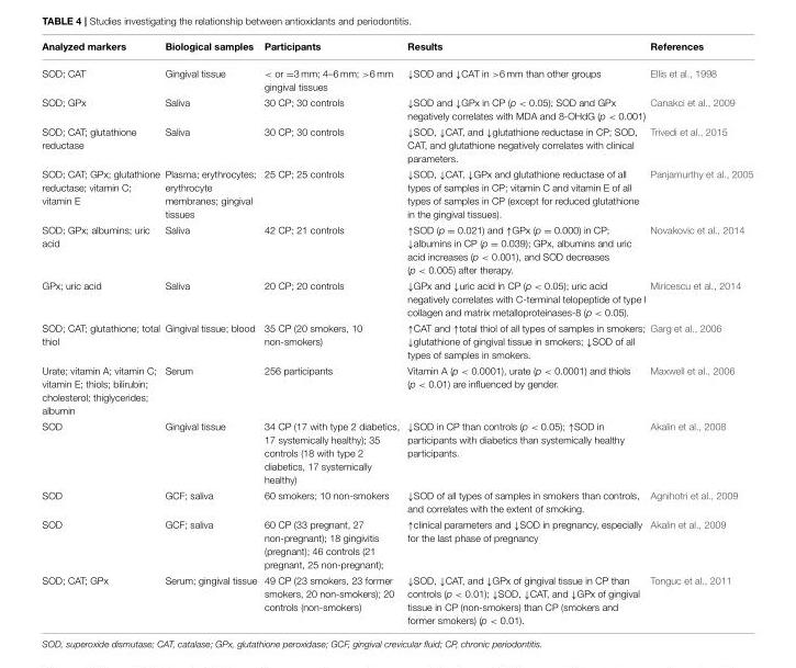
<table><thead><tr><td>Analyzed markers</td><td>Biological samples</td><td>Participants</td><td>Results</td><td>References</td></tr></thead><tbody><tr><td>SOD; CAT</td><td>Gingival tissue</td><td>&lt; or =3 mm; 4–6 mm; &gt;6 mm gingival tissues</td><td>↓SOD and ↓CAT in &gt;6 mm than other groups</td><td>Ellis et al., 1998</td></tr><tr><td>SOD; GPx</td><td>Saliva</td><td>30 CP; 30 controls</td><td>↓SOD and ↓GPx in CP (p &lt; 0.05); SOD and GPx negatively correlates with MDA and 8-OHdG (p &lt; 0.001)</td><td>Canakci et al., 2009</td></tr><tr><td>SOD; CAT; glutathione reductase</td><td>Saliva</td><td>30 CP; 30 controls</td><td>↓SOD, ↓CAT, and ↓glutathione reductase in CP; SOD, CAT, and glutathione negatively correlates with clinical parameters.</td><td>Trivedi et al., 2015</td></tr><tr><td>SOD; CAT; GPx; glutathione reductase; vitamin C; vitamin E</td><td>Plasma; erythrocytes; erythrocyte membranes; gingival tissues</td><td>25 CP; 25 controls</td><td>↓SOD, ↓CAT, ↓GPx and glutathione reductase of all types of samples in CP; vitamin C and vitamin E of all types of samples in CP (except for reduced glutathione in the gingival tissues).</td><td>Panjamurthy et al., 2005</td></tr><tr><td>SOD; GPx; albumins; uric acid</td><td>Saliva</td><td>42 CP; 21 controls</td><td>↑SOD (p = 0.021) and ↑GPx (p = 0.000) in CP; ↓albumins in CP (p = 0.039); GPx, albumins and uric acid increases (p &lt; 0.001), and SOD decreases (p &lt; 0.005) after therapy.</td><td>Novakovic et al., 2014</td></tr><tr><td>GPx; uric acid</td><td>Saliva</td><td>20 CP; 20 controls</td><td>↓GPx and ↓uric acid in CP (p &lt; 0.05); uric acid negatively correlates with C-terminal telopeptide of type I collagen and matrix metalloproteinases-8 (p &lt; 0.05).</td><td>Miricescu et al., 2014</td></tr><tr><td>SOD; CAT; glutathione; total thiol</td><td>Gingival tissue; blood</td><td>35 CP (20 smokers, 10 non-smokers)</td><td>↑CAT and ↑total thiol of all types of samples in smokers; ↓glutathione of gingival tissue in smokers; ↓SOD of all types of samples in smokers.</td><td>Garg et al., 2006</td></tr><tr><td>Urate; vitamin A; vitamin C; vitamin E; thiols; bilirubin; cholesterol; thiglycerides; albumin</td><td>Serum</td><td>256 participants</td><td>Vitamin A (p &lt; 0.0001), urate (p &lt; 0.0001) and thiols (p &lt; 0.01) are influenced by gender.</td><td>Maxwell et al., 2006</td></tr><tr><td>SOD</td><td>Gingival tissue</td><td>34 CP (17 with type 2 diabetics, 17 systemically healthy); 35 controls (18 with type 2 diabetics, 17 systemically healthy)</td><td>↓SOD in CP than controls (p &lt; 0.05); ↑SOD in participants with diabetics than systemically healthy participants.</td><td>Akalin et al., 2008</td></tr><tr><td>SOD</td><td>GCF; saliva</td><td>60 smokers; 10 non-smokers</td><td>↓SOD of all types of samples in smokers than controls, and correlates with the extent of smoking.</td><td>Agnihotri et al., 2009</td></tr><tr><td>SOD</td><td>GCF; saliva</td><td>60 CP (33 pregnant, 27 non-pregnant); 18 gingivitis (pregnant); 46 controls (21 pregnant, 25 non-pregnant);</td><td>↑clinical parameters and ↓SOD in pregnancy, especially for the last phase of pregnancy</td><td>Akalin et al., 2009</td></tr><tr><td>SOD; CAT; GPx</td><td>Serum; gingival tissue</td><td>49 CP (23 smokers, 23 former smokers, 20 non-smokers); 20 controls (non-smokers)</td><td>↓SOD, ↓CAT, and ↓GPx of gingival tissue in CP than controls (p &lt; 0.01); ↓SOD, ↓CAT, and ↓GPx of gingival tissue in CP (non-smokers) than CP (smokers and former smokers) (p &lt; 0.01).</td><td>Tonguc et al., 2011</td></tr></tbody></table>